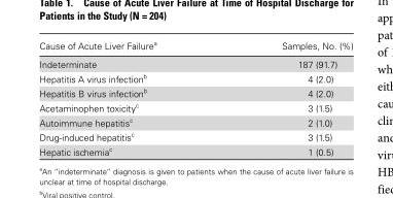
<table><thead><tr><td>Cause of Acute Liver Failure<sup>a</sup></td><td>Samples, No. (%)</td></tr></thead><tbody><tr><td>Indeterminate</td><td>187 (91.7)</td></tr><tr><td>Hepatitis A virus infection<sup>b</sup></td><td>4 (2.0)</td></tr><tr><td>Hepatitis B virus infection<sup>b</sup></td><td>4 (2.0)</td></tr><tr><td>Acetaminophen toxicity<sup>c</sup></td><td>3 (1.5)</td></tr><tr><td>Autoimmune hepatitis<sup>c</sup></td><td>2 (1.0)</td></tr><tr><td>Drug-induced hepatitis<sup>c</sup></td><td>3 (1.5)</td></tr><tr><td>Hepatic ischemia<sup>c</sup></td><td>1 (0.5)</td></tr></tbody></table>